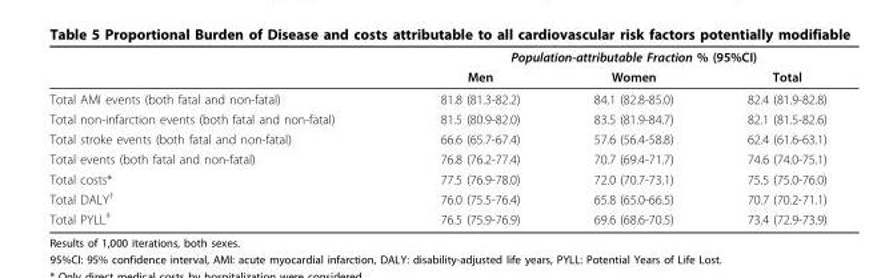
<table><thead><tr><td rowspan="2"></td><td colspan="3">Population-attributable Fraction % (95%CI)</td></tr><tr><td>Men</td><td>Women</td><td>Total</td></tr></thead><tbody><tr><td>Total AMI events (both fatal and non-fatal)</td><td>81.8 (81.3-82.2)</td><td>84.1 (82.8-85.0)</td><td>82.4 (81.9-82.8)</td></tr><tr><td>Total non-infarction events (both fatal and non-fatal)</td><td>81.5 (80.9-82.0)</td><td>83.5 (81.9-84.7)</td><td>82.1 (81.5-82.6)</td></tr><tr><td>Total stroke events (both fatal and non-fatal)</td><td>66.6 (65.7-67.4)</td><td>57.6 (56.4-58.8)</td><td>62.4 (61.6-63.1)</td></tr><tr><td>Total events (both fatal and non-fatal)</td><td>76.8 (76.2-77.4)</td><td>70.7 (69.4-71.7)</td><td>74.6 (74.0-75.1)</td></tr><tr><td>Total costs*</td><td>77.5 (76.9-78.0)</td><td>72.0 (70.7-73.1)</td><td>75.5 (75.0-76.0)</td></tr><tr><td>Total DALY<sup>†</sup></td><td>76.0 (75.5-76.4)</td><td>65.8 (65.0-66.5)</td><td>70.7 (70.2-71.1)</td></tr><tr><td>Total PYLL<sup>‡</sup></td><td>76.5 (75.9-76.9)</td><td>69.6 (68.6-70.5)</td><td>73.4 (72.9-73.9)</td></tr></tbody></table>